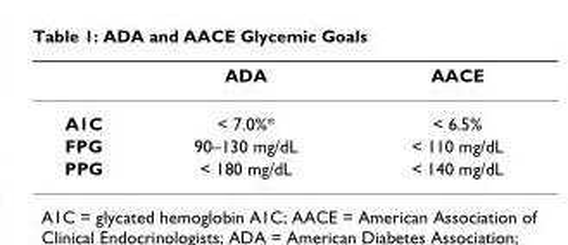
<table><thead><tr><td></td><td>ADA</td><td>AACE</td></tr></thead><tbody><tr><td>A1C</td><td>&lt; 7.0%*</td><td>&lt; 6.5%</td></tr><tr><td>FPG</td><td>90–130 mg/dL</td><td>&lt; 110 mg/dL</td></tr><tr><td>PPG</td><td>&lt; 180 mg/dL</td><td>&lt; 140 mg/dL</td></tr></tbody></table>